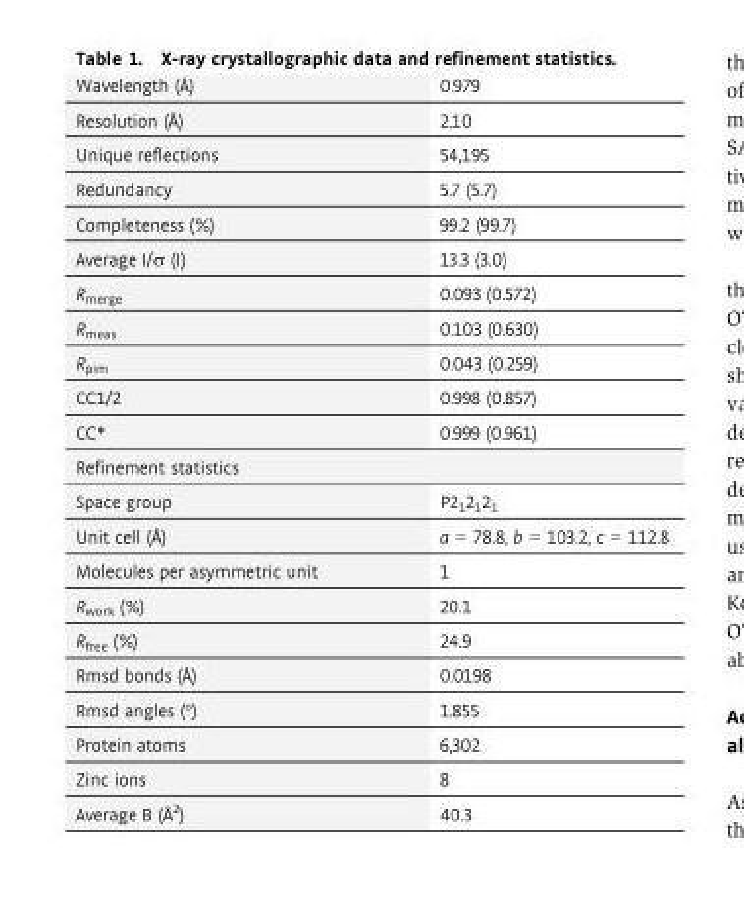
<table><tbody><tr><td>Wavelength (Å)</td><td>0.979</td></tr><tr><td>Resolution (Å)</td><td>2.10</td></tr><tr><td>Unique reflections</td><td>54,195</td></tr><tr><td>Redundancy</td><td>5.7 (5.7)</td></tr><tr><td>Completeness (%)</td><td>99.2 (99.7)</td></tr><tr><td>Average I/σ (I)</td><td>13.3 (3.0)</td></tr><tr><td>R<sub>merge</sub></td><td>0.093 (0.572)</td></tr><tr><td>R<sub>meas</sub></td><td>0.103 (0.630)</td></tr><tr><td>R<sub>pim</sub></td><td>0.043 (0.259)</td></tr><tr><td>CC1/2</td><td>0.998 (0.857)</td></tr><tr><td>CC*</td><td>0.999 (0.961)</td></tr><tr><td colspan="2">Refinement statistics</td></tr><tr><td>Space group</td><td>P2<sub>1</sub>2<sub>1</sub>2<sub>1</sub></td></tr><tr><td>Unit cell (Å)</td><td>a = 78.8, b = 103.2, c = 112.8</td></tr><tr><td>Molecules per asymmetric unit</td><td>1</td></tr><tr><td>R<sub>work</sub> (%)</td><td>20.1</td></tr><tr><td>R<sub>free</sub> (%)</td><td>24.9</td></tr><tr><td>Rmsd bonds (Å)</td><td>0.0198</td></tr><tr><td>Rmsd angles (°)</td><td>1.855</td></tr><tr><td>Protein atoms</td><td>6,302</td></tr><tr><td>Zinc ions</td><td>8</td></tr><tr><td>Average B (Å<sup>2</sup>)</td><td>40.3</td></tr></tbody></table>